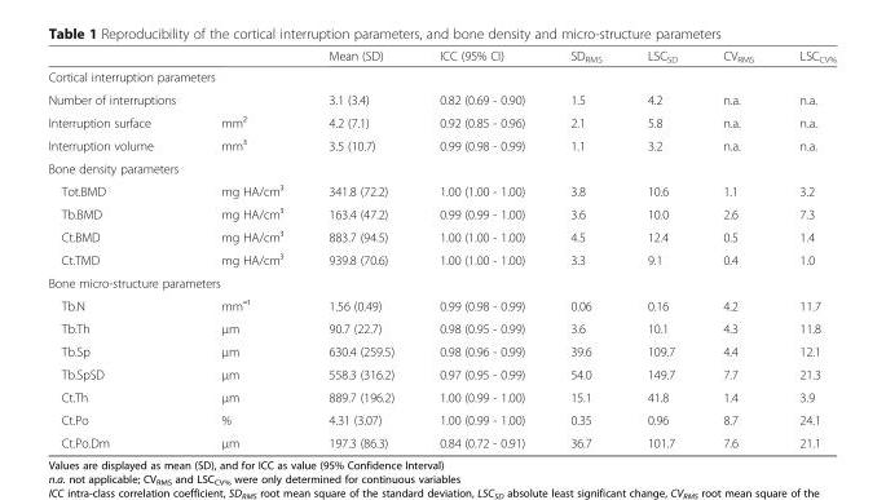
<table><thead><tr><td></td><td></td><td>Mean (SD)</td><td>ICC (95% CI)</td><td>SD<sub>RMS</sub></td><td>LSC<sub>SD</sub></td><td>CV<sub>RMS</sub></td><td>LSC<sub>CV%</sub></td></tr></thead><tbody><tr><td colspan="8">Cortical interruption parameters</td></tr><tr><td>Number of interruptions</td><td></td><td>3.1 (3.4)</td><td>0.82 (0.69 - 0.90)</td><td>1.5</td><td>4.2</td><td>n.a.</td><td>n.a.</td></tr><tr><td>Interruption surface</td><td>mm²</td><td>4.2 (7.1)</td><td>0.92 (0.85 - 0.96)</td><td>2.1</td><td>5.8</td><td>n.a.</td><td>n.a.</td></tr><tr><td>Interruption volume</td><td>mm³</td><td>3.5 (10.7)</td><td>0.99 (0.98 - 0.99)</td><td>1.1</td><td>3.2</td><td>n.a.</td><td>n.a.</td></tr><tr><td colspan="8">Bone density parameters</td></tr><tr><td>Tot.BMD</td><td>mg HA/cm³</td><td>341.8 (72.2)</td><td>1.00 (1.00 - 1.00)</td><td>3.8</td><td>10.6</td><td>1.1</td><td>3.2</td></tr><tr><td>Tb.BMD</td><td>mg HA/cm³</td><td>163.4 (47.2)</td><td>0.99 (0.99 - 1.00)</td><td>3.6</td><td>10.0</td><td>2.6</td><td>7.3</td></tr><tr><td>Ct.BMD</td><td>mg HA/cm³</td><td>883.7 (94.5)</td><td>1.00 (1.00 - 1.00)</td><td>4.5</td><td>12.4</td><td>0.5</td><td>1.4</td></tr><tr><td>Ct.TMD</td><td>mg HA/cm³</td><td>939.8 (70.6)</td><td>1.00 (1.00 - 1.00)</td><td>3.3</td><td>9.1</td><td>0.4</td><td>1.0</td></tr><tr><td colspan="8">Bone micro-structure parameters</td></tr><tr><td>Tb.N</td><td>mmˉ¹</td><td>1.56 (0.49)</td><td>0.99 (0.98 - 0.99)</td><td>0.06</td><td>0.16</td><td>4.2</td><td>11.7</td></tr><tr><td>Tb.Th</td><td>μm</td><td>90.7 (22.7)</td><td>0.98 (0.95 - 0.99)</td><td>3.6</td><td>10.1</td><td>4.3</td><td>11.8</td></tr><tr><td>Tb.Sp</td><td>μm</td><td>630.4 (259.5)</td><td>0.98 (0.96 - 0.99)</td><td>39.6</td><td>109.7</td><td>4.4</td><td>12.1</td></tr><tr><td>Tb.SpSD</td><td>μm</td><td>558.3 (316.2)</td><td>0.97 (0.95 - 0.99)</td><td>54.0</td><td>149.7</td><td>7.7</td><td>21.3</td></tr><tr><td>Ct.Th</td><td>μm</td><td>889.7 (196.2)</td><td>1.00 (0.99 - 1.00)</td><td>15.1</td><td>41.8</td><td>1.4</td><td>3.9</td></tr><tr><td>Ct.Po</td><td>%</td><td>4.31 (3.07)</td><td>1.00 (0.99 - 1.00)</td><td>0.35</td><td>0.96</td><td>8.7</td><td>24.1</td></tr><tr><td>Ct.Po.Dm</td><td>μm</td><td>197.3 (86.3)</td><td>0.84 (0.72 - 0.91)</td><td>36.7</td><td>101.7</td><td>7.6</td><td>21.1</td></tr></tbody></table>